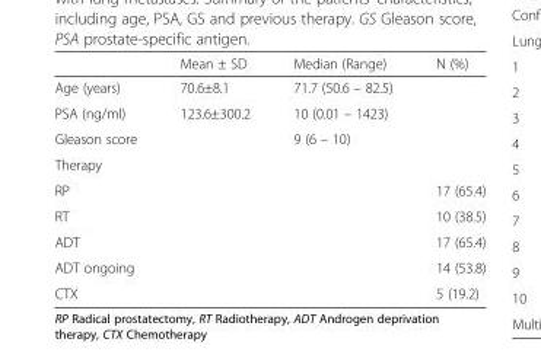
<table><thead><tr><td></td><td>Mean ± SD</td><td>Median (Range)</td><td>N (%)</td></tr></thead><tbody><tr><td>Age (years)</td><td>70.6±8.1</td><td>71.7 (50.6 – 82.5)</td><td></td></tr><tr><td>PSA (ng/ml)</td><td>123.6±300.2</td><td>10 (0.01 – 1423)</td><td></td></tr><tr><td>Gleason score</td><td></td><td>9 (6 – 10)</td><td></td></tr><tr><td colspan="4">Therapy</td></tr><tr><td>RP</td><td></td><td></td><td>17 (65.4)</td></tr><tr><td>RT</td><td></td><td></td><td>10 (38.5)</td></tr><tr><td>ADT</td><td></td><td></td><td>17 (65.4)</td></tr><tr><td>ADT ongoing</td><td></td><td></td><td>14 (53.8)</td></tr><tr><td>CTX</td><td></td><td></td><td>5 (19.2)</td></tr></tbody></table>